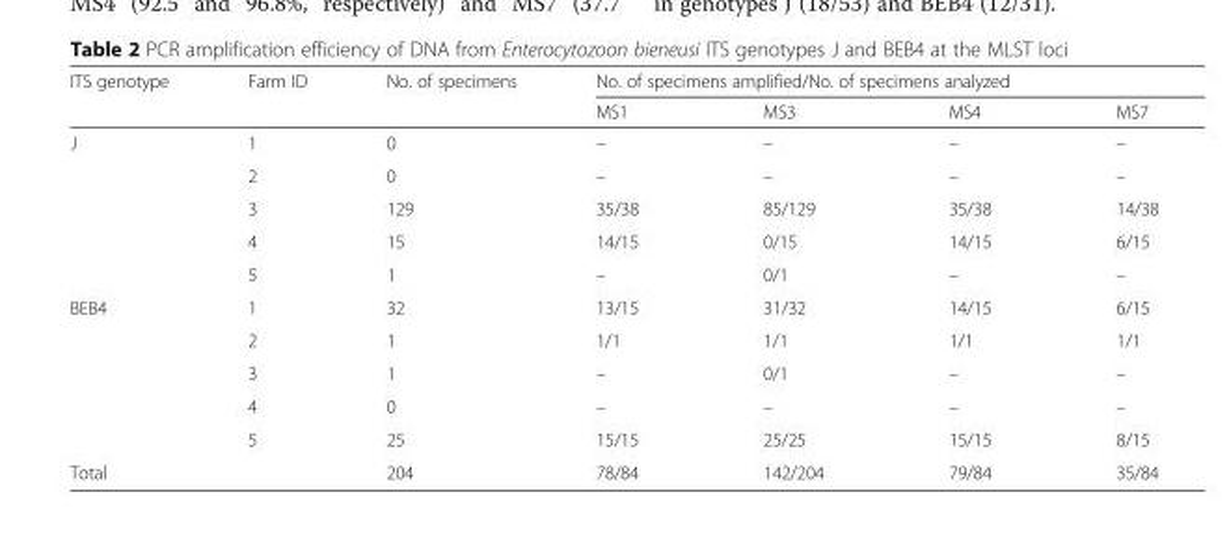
<table><thead><tr><td rowspan="2">ITS genotype</td><td rowspan="2">Farm ID</td><td rowspan="2">No. of specimens</td><td colspan="4">No. of specimens amplified/No. of specimens analyzed</td></tr><tr><td>MS1</td><td>MS3</td><td>MS4</td><td>MS7</td></tr></thead><tbody><tr><td rowspan="5">J</td><td>1</td><td>0</td><td>–</td><td>–</td><td>–</td><td>–</td></tr><tr><td>2</td><td>0</td><td>–</td><td>–</td><td>–</td><td>–</td></tr><tr><td>3</td><td>129</td><td>35/38</td><td>85/129</td><td>35/38</td><td>14/38</td></tr><tr><td>4</td><td>15</td><td>14/15</td><td>0/15</td><td>14/15</td><td>6/15</td></tr><tr><td>5</td><td>1</td><td>–</td><td>0/1</td><td>–</td><td>–</td></tr><tr><td rowspan="5">BEB4</td><td>1</td><td>32</td><td>13/15</td><td>31/32</td><td>14/15</td><td>6/15</td></tr><tr><td>2</td><td>1</td><td>1/1</td><td>1/1</td><td>1/1</td><td>1/1</td></tr><tr><td>3</td><td>1</td><td>–</td><td>0/1</td><td>–</td><td>–</td></tr><tr><td>4</td><td>0</td><td>–</td><td>–</td><td>–</td><td>–</td></tr><tr><td>5</td><td>25</td><td>15/15</td><td>25/25</td><td>15/15</td><td>8/15</td></tr><tr><td>Total</td><td></td><td>204</td><td>78/84</td><td>142/204</td><td>79/84</td><td>35/84</td></tr></tbody></table>